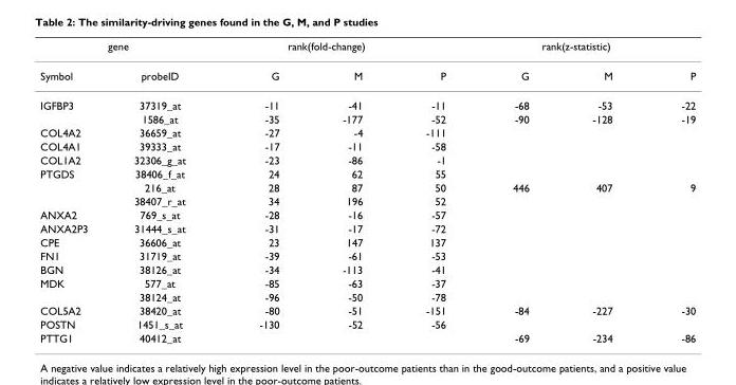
<table><thead><tr><td colspan="2">gene</td><td colspan="3">rank(fold-change)</td><td colspan="3">rank(z-statistic)</td></tr><tr><td>Symbol</td><td>probeID</td><td>G</td><td>M</td><td>P</td><td>G</td><td>M</td><td>P</td></tr></thead><tbody><tr><td rowspan="2">IGFBP3</td><td>37319_at</td><td>-11</td><td>-41</td><td>-11</td><td>-68</td><td>-53</td><td>-22</td></tr><tr><td>1586_at</td><td>-35</td><td>-177</td><td>-52</td><td>-90</td><td>-128</td><td>-19</td></tr><tr><td>COL4A2</td><td>36659_at</td><td>-27</td><td>-4</td><td>-111</td><td></td><td></td><td></td></tr><tr><td>COL4A1</td><td>39333_at</td><td>-17</td><td>-11</td><td>-58</td><td></td><td></td><td></td></tr><tr><td>COL1A2</td><td>32306_g_at</td><td>-23</td><td>-86</td><td>-1</td><td></td><td></td><td></td></tr><tr><td rowspan="3">PTGDS</td><td>38406_f_at</td><td>24</td><td>62</td><td>55</td><td></td><td></td><td></td></tr><tr><td>216_at</td><td>28</td><td>87</td><td>50</td><td>446</td><td>407</td><td>9</td></tr><tr><td>38407_r_at</td><td>34</td><td>196</td><td>52</td><td></td><td></td><td></td></tr><tr><td>ANXA2</td><td>769_s_at</td><td>-28</td><td>-16</td><td>-57</td><td></td><td></td><td></td></tr><tr><td>ANXA2P3</td><td>31444_s_at</td><td>-31</td><td>-17</td><td>-72</td><td></td><td></td><td></td></tr><tr><td>CPE</td><td>36606_at</td><td>23</td><td>147</td><td>137</td><td></td><td></td><td></td></tr><tr><td>FN1</td><td>31719_at</td><td>-39</td><td>-61</td><td>-53</td><td></td><td></td><td></td></tr><tr><td>BGN</td><td>38126_at</td><td>-34</td><td>-113</td><td>-41</td><td></td><td></td><td></td></tr><tr><td rowspan="2">MDK</td><td>577_at</td><td>-85</td><td>-63</td><td>-37</td><td></td><td></td><td></td></tr><tr><td>38124_at</td><td>-96</td><td>-50</td><td>-78</td><td></td><td></td><td></td></tr><tr><td>COL5A2</td><td>38420_at</td><td>-80</td><td>-51</td><td>-151</td><td>-84</td><td>-227</td><td>-30</td></tr><tr><td>POSTN</td><td>1451_s_at</td><td>-130</td><td>-52</td><td>-56</td><td></td><td></td><td></td></tr><tr><td>PTTG1</td><td>40412_at</td><td></td><td></td><td></td><td>-69</td><td>-234</td><td>-86</td></tr></tbody></table>